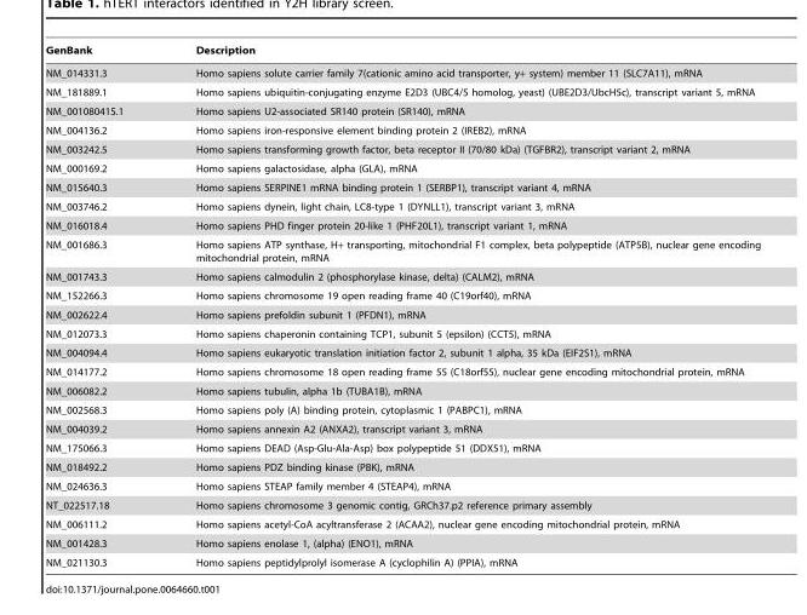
<table><thead><tr><td>GenBank</td><td>Description</td></tr></thead><tbody><tr><td>NM_014331.3</td><td>Homo sapiens solute carrier family 7(cationic amino acid transporter, y+ system) member 11 (SLC7A11), mRNA</td></tr><tr><td>NM_181889.1</td><td>Homo sapiens ubiquitin-conjugating enzyme E2D3 (UBC4/5 homolog, yeast) (UBE2D3/UbcH5c), transcript variant 5, mRNA</td></tr><tr><td>NM_001080415.1</td><td>Homo sapiens U2-associated SR140 protein (SR140), mRNA</td></tr><tr><td>NM_004136.2</td><td>Homo sapiens iron-responsive element binding protein 2 (IREB2), mRNA</td></tr><tr><td>NM_003242.5</td><td>Homo sapiens transforming growth factor, beta receptor II (70/80 kDa) (TGFBR2), transcript variant 2, mRNA</td></tr><tr><td>NM_000169.2</td><td>Homo sapiens galactosidase, alpha (GLA), mRNA</td></tr><tr><td>NM_015640.3</td><td>Homo sapiens SERPINE1 mRNA binding protein 1 (SERBP1), transcript variant 4, mRNA</td></tr><tr><td>NM_003746.2</td><td>Homo sapiens dynein, light chain, LC8-type 1 (DYNLL1), transcript variant 3, mRNA</td></tr><tr><td>NM_016018.4</td><td>Homo sapiens PHD finger protein 20-like 1 (PHF20L1), transcript variant 1, mRNA</td></tr><tr><td>NM_001686.3</td><td>Homo sapiens ATP synthase, H+ transporting, mitochondrial F1 complex, beta polypeptide (ATP5B), nuclear gene encoding mitochondrial protein, mRNA</td></tr><tr><td>NM_001743.3</td><td>Homo sapiens calmodulin 2 (phosphorylase kinase, delta) (CALM2), mRNA</td></tr><tr><td>NM_152266.3</td><td>Homo sapiens chromosome 19 open reading frame 40 (C19orf40), mRNA</td></tr><tr><td>NM_002622.4</td><td>Homo sapiens prefoldin subunit 1 (PFDN1), mRNA</td></tr><tr><td>NM_012073.3</td><td>Homo sapiens chaperonin containing TCP1, subunit 5 (epsilon) (CCT5), mRNA</td></tr><tr><td>NM_004094.4</td><td>Homo sapiens eukaryotic translation initiation factor 2, subunit 1 alpha, 35 kDa (EIF2S1), mRNA</td></tr><tr><td>NM_014177.2</td><td>Homo sapiens chromosome 18 open reading frame 55 (C18orf55), nuclear gene encoding mitochondrial protein, mRNA</td></tr><tr><td>NM_006082.2</td><td>Homo sapiens tubulin, alpha 1b (TUBA1B), mRNA</td></tr><tr><td>NM_002568.3</td><td>Homo sapiens poly (A) binding protein, cytoplasmic 1 (PABPC1), mRNA</td></tr><tr><td>NM_004039.2</td><td>Homo sapiens annexin A2 (ANXA2), transcript variant 3, mRNA</td></tr><tr><td>NM_175066.3</td><td>Homo sapiens DEAD (Asp-Glu-Ala-Asp) box polypeptide 51 (DDX51), mRNA</td></tr><tr><td>NM_018492.2</td><td>Homo sapiens PDZ binding kinase (PBK), mRNA</td></tr><tr><td>NM_024636.3</td><td>Homo sapiens STEAP family member 4 (STEAP4), mRNA</td></tr><tr><td>NT_022517.18</td><td>Homo sapiens chromosome 3 genomic contig, GRCh37.p2 reference primary assembly</td></tr><tr><td>NM_006111.2</td><td>Homo sapiens acetyl-CoA acyltransferase 2 (ACAA2), nuclear gene encoding mitochondrial protein, mRNA</td></tr><tr><td>NM_001428.3</td><td>Homo sapiens enolase 1, (alpha) (ENO1), mRNA</td></tr><tr><td>NM_021130.3</td><td>Homo sapiens peptidylprolyl isomerase A (cyclophilin A) (PPIA), mRNA</td></tr></tbody></table>